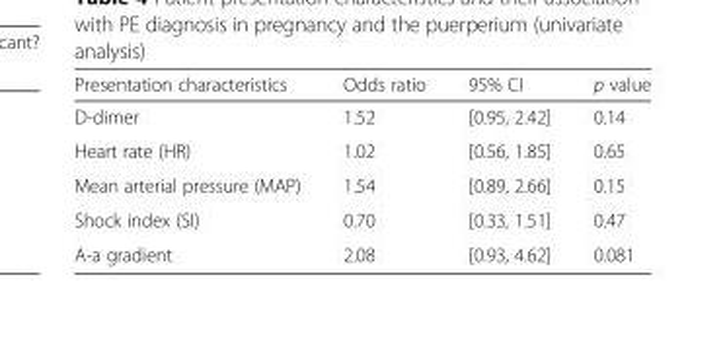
<table><thead><tr><td>Presentation characteristics</td><td>Odds ratio</td><td>95% CI</td><td>p value</td></tr></thead><tbody><tr><td>D-dimer</td><td>1.52</td><td>[0.95, 2.42]</td><td>0.14</td></tr><tr><td>Heart rate (HR)</td><td>1.02</td><td>[0.56, 1.85]</td><td>0.65</td></tr><tr><td>Mean arterial pressure (MAP)</td><td>1.54</td><td>[0.89, 2.66]</td><td>0.15</td></tr><tr><td>Shock index (SI)</td><td>0.70</td><td>[0.33, 1.51]</td><td>0.47</td></tr><tr><td>A-a gradient</td><td>2.08</td><td>[0.93, 4.62]</td><td>0.081</td></tr></tbody></table>